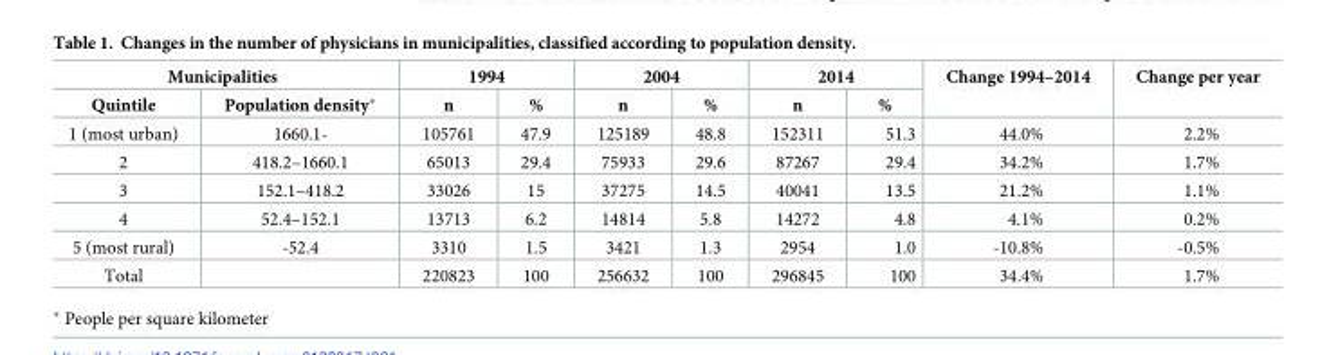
<table><thead><tr><td colspan="2">Municipalities</td><td colspan="2">1994</td><td colspan="2">2004</td><td colspan="2">2014</td><td rowspan="2">Change 1994–2014</td><td rowspan="2">Change per year</td></tr><tr><td>Quintile</td><td>Population density*</td><td>n</td><td>%</td><td>n</td><td>%</td><td>n</td><td>%</td></tr></thead><tbody><tr><td>1 (most urban)</td><td>1660.1-</td><td>105761</td><td>47.9</td><td>125189</td><td>48.8</td><td>152311</td><td>51.3</td><td>44.0%</td><td>2.2%</td></tr><tr><td>2</td><td>418.2–1660.1</td><td>65013</td><td>29.4</td><td>75933</td><td>29.6</td><td>87267</td><td>29.4</td><td>34.2%</td><td>1.7%</td></tr><tr><td>3</td><td>152.1–418.2</td><td>33026</td><td>15</td><td>37275</td><td>14.5</td><td>40041</td><td>13.5</td><td>21.2%</td><td>1.1%</td></tr><tr><td>4</td><td>52.4–152.1</td><td>13713</td><td>6.2</td><td>14814</td><td>5.8</td><td>14272</td><td>4.8</td><td>4.1%</td><td>0.2%</td></tr><tr><td>5 (most rural)</td><td>-52.4</td><td>3310</td><td>1.5</td><td>3421</td><td>1.3</td><td>2954</td><td>1.0</td><td>-10.8%</td><td>-0.5%</td></tr><tr><td>Total</td><td></td><td>220823</td><td>100</td><td>256632</td><td>100</td><td>296845</td><td>100</td><td>34.4%</td><td>1.7%</td></tr></tbody></table>